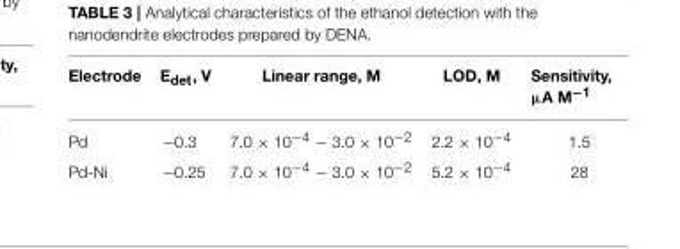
<table><thead><tr><td>Electrode</td><td>E<sub>det</sub>, V</td><td>Linear range, M</td><td>LOD, M</td><td>Sensitivity, µA M<sup>−1</sup></td></tr></thead><tbody><tr><td>Pd</td><td>−0.3</td><td>7.0 × 10<sup>−4</sup> − 3.0 × 10<sup>−2</sup></td><td>2.2 × 10<sup>−4</sup></td><td>1.5</td></tr><tr><td>Pd-Ni</td><td>−0.25</td><td>7.0 × 10<sup>−4</sup> − 3.0 × 10<sup>−2</sup></td><td>5.2 × 10<sup>−4</sup></td><td>28</td></tr></tbody></table>